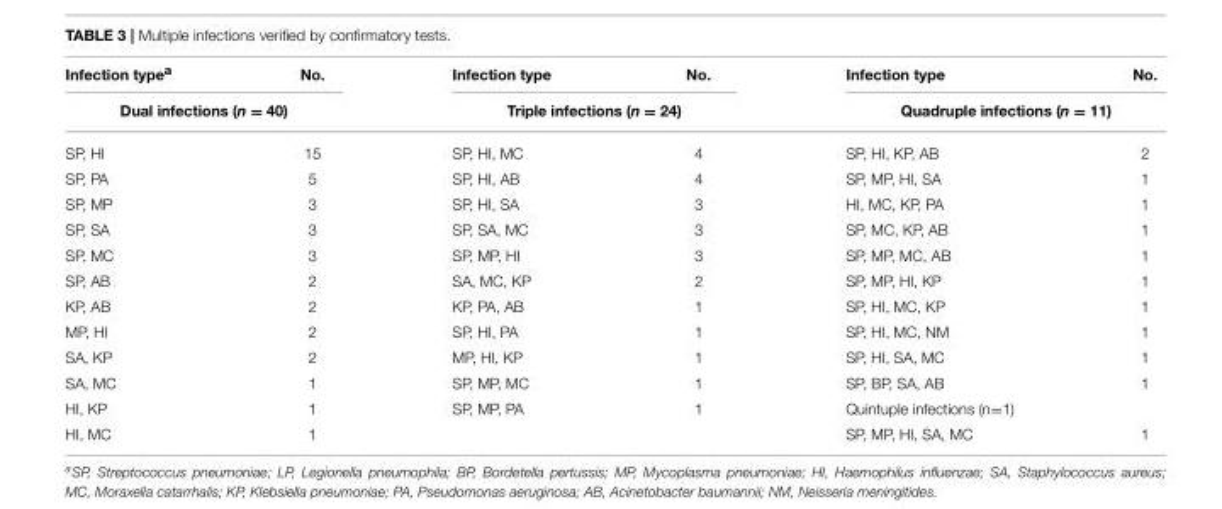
<table><thead><tr><td>Infection type<sup>a</sup></td><td>No.</td><td>Infection type</td><td>No.</td><td>Infection type</td><td>No.</td></tr><tr><td colspan="2">Dual infections (n = 40)</td><td colspan="2">Triple infections (n = 24)</td><td colspan="2">Quadruple infections (n = 11)</td></tr></thead><tbody><tr><td>SP, HI</td><td>15</td><td>SP, HI, MC</td><td>4</td><td>SP, HI, KP, AB</td><td>2</td></tr><tr><td>SP, PA</td><td>5</td><td>SP, HI, AB</td><td>4</td><td>SP, MP, HI, SA</td><td>1</td></tr><tr><td>SP, MP</td><td>3</td><td>SP, HI, SA</td><td>3</td><td>HI, MC, KP, PA</td><td>1</td></tr><tr><td>SP, SA</td><td>3</td><td>SP, SA, MC</td><td>3</td><td>SP, MC, KP, AB</td><td>1</td></tr><tr><td>SP, MC</td><td>3</td><td>SP, MP, HI</td><td>3</td><td>SP, MP, MC, AB</td><td>1</td></tr><tr><td>SP, AB</td><td>2</td><td>SA, MC, KP</td><td>2</td><td>SP, MP, HI, KP</td><td>1</td></tr><tr><td>KP, AB</td><td>2</td><td>KP, PA, AB</td><td>1</td><td>SP, HI, MC, KP</td><td>1</td></tr><tr><td>MP, HI</td><td>2</td><td>SP, HI, PA</td><td>1</td><td>SP, HI, MC, NM</td><td>1</td></tr><tr><td>SA, KP</td><td>2</td><td>MP, HI, KP</td><td>1</td><td>SP, HI, SA, MC</td><td>1</td></tr><tr><td>SA, MC</td><td>1</td><td>SP, MP, MC</td><td>1</td><td>SP, BP, SA, AB</td><td>1</td></tr><tr><td>HI, KP</td><td>1</td><td>SP, MP, PA</td><td>1</td><td>Quintuple infections (n=1)</td><td></td></tr><tr><td>HI, MC</td><td>1</td><td></td><td></td><td>SP, MP, HI, SA, MC</td><td>1</td></tr></tbody></table>